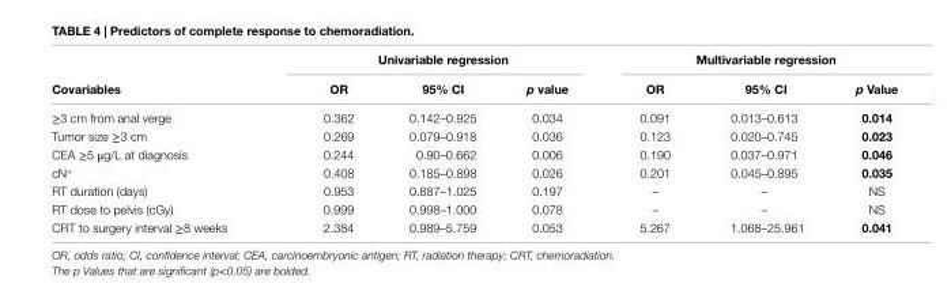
<table><thead><tr><td rowspan="2">covariables</td><td colspan="3">Univariable regression</td><td colspan="3">Multivariable regression</td></tr><tr><td>Or</td><td>95% ci</td><td>p value</td><td>Or</td><td>95% ci</td><td>p Value</td></tr></thead><tbody><tr><td>≥3 cm from anal verge</td><td>0.362</td><td>0.142–0.925</td><td>0.034</td><td>0.091</td><td>0.013–0.613</td><td>0.014</td></tr><tr><td>Tumor size ≥3 cm</td><td>0.269</td><td>0.079–0.918</td><td>0.036</td><td>0.123</td><td>0.020–0.745</td><td>0.023</td></tr><tr><td>CEA ≥5 μg/L at diagnosis</td><td>0.244</td><td>0.90–0.662</td><td>0.006</td><td>0.190</td><td>0.037–0.971</td><td>0.046</td></tr><tr><td>cN<sup>+</sup></td><td>0.408</td><td>0.185–0.898</td><td>0.026</td><td>0.201</td><td>0.045–0.895</td><td>0.035</td></tr><tr><td>RT duration (days)</td><td>0.953</td><td>0.887–1.025</td><td>0.197</td><td>–</td><td>–</td><td>NS</td></tr><tr><td>RT dose to pelvis (cGy)</td><td>0.999</td><td>0.998–1.000</td><td>0.078</td><td>–</td><td>–</td><td>NS</td></tr><tr><td>CRT to surgery interval ≥8 weeks</td><td>2.384</td><td>0.989–5.759</td><td>0.053</td><td>5.267</td><td>1.068–25.961</td><td>0.041</td></tr></tbody></table>